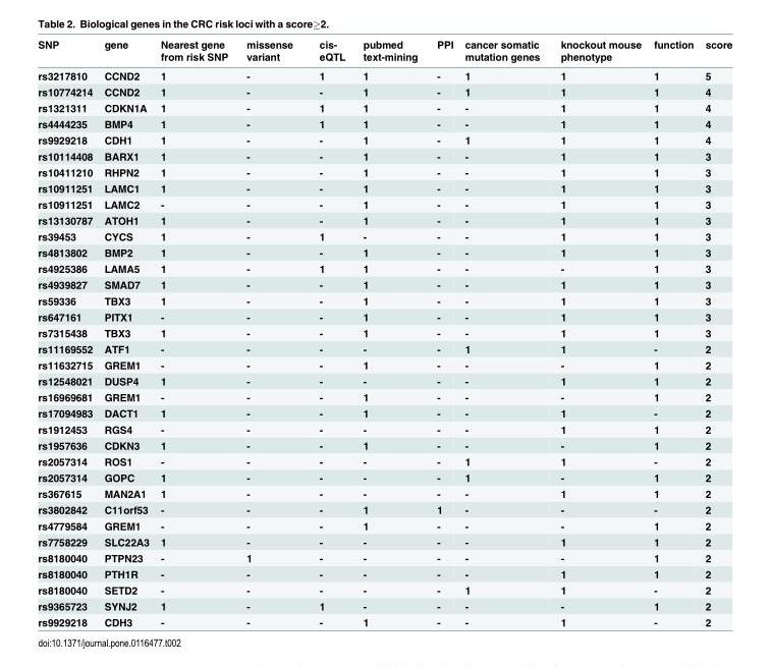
<table><thead><tr><td>SNP</td><td>gene</td><td>Nearest gene from risk SNP</td><td>missense variant</td><td>cis- eQTL</td><td>pubmed text-mining</td><td>PPI</td><td>cancer somatic mutation genes</td><td>knockout mouse phenotype</td><td>function</td><td>score</td></tr></thead><tbody><tr><td>rs3217810</td><td>CCND2</td><td>1</td><td>-</td><td>1</td><td>1</td><td>-</td><td>1</td><td>1</td><td>1</td><td>5</td></tr><tr><td>rs10774214</td><td>CCND2</td><td>1</td><td>-</td><td>-</td><td>1</td><td>-</td><td>1</td><td>1</td><td>1</td><td>4</td></tr><tr><td>rs1321311</td><td>CDKN1A</td><td>1</td><td>-</td><td>1</td><td>1</td><td>-</td><td>-</td><td>1</td><td>1</td><td>4</td></tr><tr><td>rs4444235</td><td>BMP4</td><td>1</td><td>-</td><td>1</td><td>1</td><td>-</td><td>-</td><td>1</td><td>1</td><td>4</td></tr><tr><td>rs9929218</td><td>CDH1</td><td>1</td><td>-</td><td>-</td><td>1</td><td>-</td><td>1</td><td>1</td><td>1</td><td>4</td></tr><tr><td>rs10114408</td><td>BARX1</td><td>1</td><td>-</td><td>-</td><td>1</td><td>-</td><td>-</td><td>1</td><td>1</td><td>3</td></tr><tr><td>rs10411210</td><td>RHPN2</td><td>1</td><td>-</td><td>-</td><td>1</td><td>-</td><td>-</td><td>1</td><td>1</td><td>3</td></tr><tr><td>rs10911251</td><td>LAMC1</td><td>1</td><td>-</td><td>-</td><td>1</td><td>-</td><td>-</td><td>1</td><td>1</td><td>3</td></tr><tr><td>rs10911251</td><td>LAMC2</td><td>-</td><td>-</td><td>-</td><td>1</td><td>-</td><td>-</td><td>1</td><td>1</td><td>3</td></tr><tr><td>rs13130787</td><td>ATOH1</td><td>1</td><td>-</td><td>-</td><td>1</td><td>-</td><td>-</td><td>1</td><td>1</td><td>3</td></tr><tr><td>rs39453</td><td>CYCS</td><td>1</td><td>-</td><td>1</td><td>-</td><td>-</td><td>-</td><td>1</td><td>1</td><td>3</td></tr><tr><td>rs4813802</td><td>BMP2</td><td>1</td><td>-</td><td>-</td><td>1</td><td>-</td><td>-</td><td>1</td><td>1</td><td>3</td></tr><tr><td>rs4925386</td><td>LAMA5</td><td>1</td><td>-</td><td>1</td><td>1</td><td>-</td><td>-</td><td>-</td><td>1</td><td>3</td></tr><tr><td>rs4939827</td><td>SMAD7</td><td>1</td><td>-</td><td>-</td><td>1</td><td>-</td><td>-</td><td>1</td><td>1</td><td>3</td></tr><tr><td>rs59336</td><td>TBX3</td><td>1</td><td>-</td><td>-</td><td>1</td><td>-</td><td>-</td><td>1</td><td>1</td><td>3</td></tr><tr><td>rs647161</td><td>PITX1</td><td>-</td><td>-</td><td>-</td><td>1</td><td>-</td><td>-</td><td>1</td><td>1</td><td>3</td></tr><tr><td>rs7315438</td><td>TBX3</td><td>1</td><td>-</td><td>-</td><td>1</td><td>-</td><td>-</td><td>1</td><td>1</td><td>3</td></tr><tr><td>rs11169552</td><td>ATF1</td><td>-</td><td>-</td><td>-</td><td>-</td><td>-</td><td>1</td><td>1</td><td>-</td><td>2</td></tr><tr><td>rs11632715</td><td>GREM1</td><td>-</td><td>-</td><td>-</td><td>1</td><td>-</td><td>-</td><td>-</td><td>1</td><td>2</td></tr><tr><td>rs12548021</td><td>DUSP4</td><td>1</td><td>-</td><td>-</td><td>-</td><td>-</td><td>-</td><td>1</td><td>1</td><td>2</td></tr><tr><td>rs16969681</td><td>GREM1</td><td>-</td><td>-</td><td>-</td><td>1</td><td>-</td><td>-</td><td>-</td><td>1</td><td>2</td></tr><tr><td>rs17094983</td><td>DACT1</td><td>1</td><td>-</td><td>-</td><td>1</td><td>-</td><td>-</td><td>1</td><td>-</td><td>2</td></tr><tr><td>rs1912453</td><td>RGS4</td><td>-</td><td>-</td><td>-</td><td>-</td><td>-</td><td>-</td><td>1</td><td>1</td><td>2</td></tr><tr><td>rs1957636</td><td>CDKN3</td><td>1</td><td>-</td><td>-</td><td>1</td><td>-</td><td>-</td><td>-</td><td>1</td><td>2</td></tr><tr><td>rs2057314</td><td>ROS1</td><td>-</td><td>-</td><td>-</td><td>-</td><td>-</td><td>1</td><td>1</td><td>-</td><td>2</td></tr><tr><td>rs2057314</td><td>GOPC</td><td>1</td><td>-</td><td>-</td><td>-</td><td>-</td><td>1</td><td>-</td><td>1</td><td>2</td></tr><tr><td>rs367615</td><td>MAN2A1</td><td>1</td><td>-</td><td>-</td><td>-</td><td>-</td><td>-</td><td>1</td><td>1</td><td>2</td></tr><tr><td>rs3802842</td><td>C11orf53</td><td>-</td><td>-</td><td>-</td><td>1</td><td>1</td><td>-</td><td>-</td><td>-</td><td>2</td></tr><tr><td>rs4779584</td><td>GREM1</td><td>-</td><td>-</td><td>-</td><td>1</td><td>-</td><td>-</td><td>-</td><td>1</td><td>2</td></tr><tr><td>rs7758229</td><td>SLC22A3</td><td>1</td><td>-</td><td>-</td><td>-</td><td>-</td><td>-</td><td>1</td><td>1</td><td>2</td></tr><tr><td>rs8180040</td><td>PTPN23</td><td>-</td><td>1</td><td>-</td><td>-</td><td>-</td><td>-</td><td>-</td><td>1</td><td>2</td></tr><tr><td>rs8180040</td><td>PTH1R</td><td>-</td><td>-</td><td>-</td><td>-</td><td>-</td><td>-</td><td>1</td><td>1</td><td>2</td></tr><tr><td>rs8180040</td><td>SETD2</td><td>-</td><td>-</td><td>-</td><td>-</td><td>-</td><td>1</td><td>1</td><td>-</td><td>2</td></tr><tr><td>rs9365723</td><td>SYNJ2</td><td>1</td><td>-</td><td>1</td><td>-</td><td>-</td><td>-</td><td>-</td><td>1</td><td>2</td></tr><tr><td>rs9929218</td><td>CDH3</td><td>-</td><td>-</td><td>-</td><td>1</td><td>-</td><td>-</td><td>1</td><td>-</td><td>2</td></tr></tbody></table>